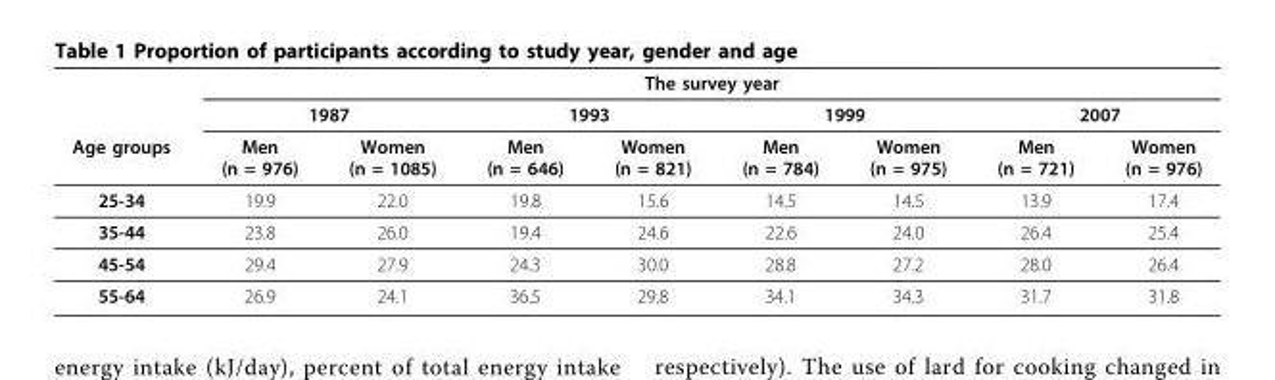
<table><thead><tr><td rowspan="3">Age groups</td><td colspan="8">The survey year</td></tr><tr><td colspan="2">1987</td><td colspan="2">1993</td><td colspan="2">1999</td><td colspan="2">2007</td></tr><tr><td>Men (n = 976)</td><td>Women (n = 1085)</td><td>Men (n = 646)</td><td>Women (n = 821)</td><td>Men (n = 784)</td><td>Women (n = 975)</td><td>Men (n = 721)</td><td>Women (n = 976)</td></tr></thead><tbody><tr><td>25-34</td><td>19.9</td><td>22.0</td><td>19.8</td><td>15.6</td><td>14.5</td><td>14.5</td><td>13.9</td><td>17.4</td></tr><tr><td>35-44</td><td>23.8</td><td>26.0</td><td>19.4</td><td>24.6</td><td>22.6</td><td>24.0</td><td>26.4</td><td>25.4</td></tr><tr><td>45-54</td><td>29.4</td><td>27.9</td><td>24.3</td><td>30.0</td><td>28.8</td><td>27.2</td><td>28.0</td><td>26.4</td></tr><tr><td>55-64</td><td>26.9</td><td>24.1</td><td>36.5</td><td>29.8</td><td>34.1</td><td>34.3</td><td>31.7</td><td>31.8</td></tr></tbody></table>